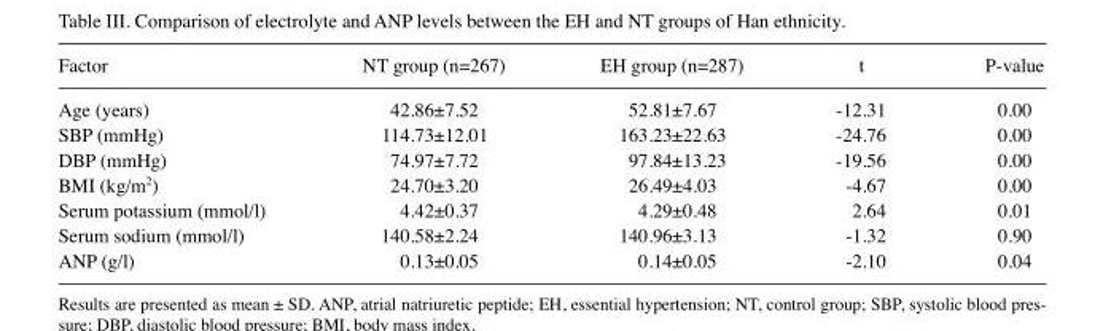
<table><thead><tr><td>Factor</td><td>NT group (n=267)</td><td>EH group (n=287)</td><td>t</td><td>P-value</td></tr></thead><tbody><tr><td>Age (years)</td><td>42.86±7.52</td><td>52.81±7.67</td><td>-12.31</td><td>0.00</td></tr><tr><td>SBP (mmHg)</td><td>114.73±12.01</td><td>163.23±22.63</td><td>-24.76</td><td>0.00</td></tr><tr><td>DBP (mmHg)</td><td>74.97±7.72</td><td>97.84±13.23</td><td>-19.56</td><td>0.00</td></tr><tr><td>BMI (kg/m<sup>2</sup>)</td><td>24.70±3.20</td><td>26.49±4.03</td><td>-4.67</td><td>0.00</td></tr><tr><td>Serum potassium (mmol/l)</td><td>4.42±0.37</td><td>4.29±0.48</td><td>2.64</td><td>0.01</td></tr><tr><td>Serum sodium (mmol/l)</td><td>140.58±2.24</td><td>140.96±3.13</td><td>-1.32</td><td>0.90</td></tr><tr><td>ANP (g/l)</td><td>0.13±0.05</td><td>0.14±0.05</td><td>-2.10</td><td>0.04</td></tr></tbody></table>